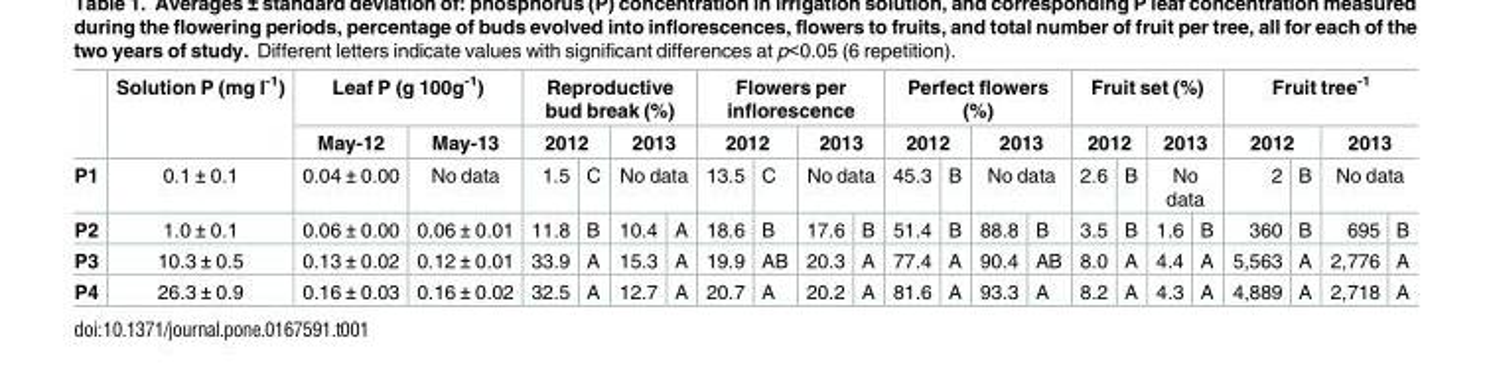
<table><thead><tr><td rowspan="4">P1 P2</td><td rowspan="4">Solution P (mg l<sup>-1</sup>) 0.1 ± 0.1 1.0 ± 0.1</td><td colspan="2">Leaf P (g 100g<sup>-1</sup>)</td><td colspan="4">Reproductive bud break (%)</td><td colspan="4">Flowers per inflorescence</td><td colspan="4">Perfect flowers (%)</td><td colspan="4">Fruit set (%)</td><td colspan="4">Fruit tree<sup>-1</sup></td></tr><tr><td rowspan="3">May-12 0.04 ± 0.00 0.06 ± 0.00</td><td rowspan="3">May-13 No data 0.06 ± 0.01</td><td colspan="2">2012</td><td rowspan="2" colspan="2">2013 No data</td><td colspan="2">2012</td><td rowspan="2" colspan="2">2013 No data</td><td colspan="2">2012</td><td rowspan="2" colspan="2">2013 No data</td><td colspan="2">2012</td><td rowspan="2" colspan="2">2013 No data</td><td colspan="2">2012</td><td rowspan="2" colspan="2">2013 No data</td></tr><tr><td rowspan="2">1.5 11.8</td><td rowspan="2">C B</td><td rowspan="2">13.5 18.6</td><td rowspan="2">C B</td><td rowspan="2">45.3 51.4</td><td rowspan="2">B B</td><td rowspan="2">2.6 3.5</td><td rowspan="2">B B</td><td rowspan="2">2 360</td><td rowspan="2">B B</td></tr><tr><td>10.4</td><td>A</td><td>17.6</td><td>B</td><td>88.8</td><td>B</td><td>1.6</td><td>B</td><td>695</td><td>B</td></tr></thead><tbody><tr><td>P3</td><td>10.3 ± 0.5</td><td>0.13 ± 0.02</td><td>0.12 ± 0.01</td><td>33.9</td><td>A</td><td>15.3</td><td>A</td><td>19.9</td><td>AB</td><td>20.3</td><td>A</td><td>77.4</td><td>A</td><td>90.4</td><td>AB</td><td>8.0</td><td>A</td><td>4.4</td><td>A</td><td>5,563</td><td>A</td><td>2,776</td><td>A</td></tr><tr><td>P4</td><td>26.3 ± 0.9</td><td>0.16 ± 0.03</td><td>0.16 ± 0.02</td><td>32.5</td><td>A</td><td>12.7</td><td>A</td><td>20.7</td><td>A</td><td>20.2</td><td>A</td><td>81.6</td><td>A</td><td>93.3</td><td>A</td><td>8.2</td><td>A</td><td>4.3</td><td>A</td><td>4,889</td><td>A</td><td>2,718</td><td>A</td></tr></tbody></table>